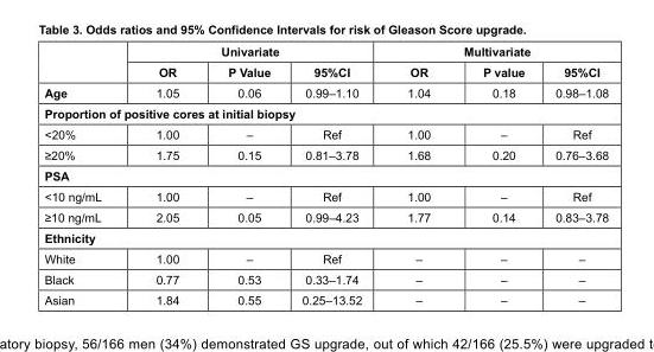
<table><thead><tr><td rowspan="2"></td><td colspan="3">Univariate</td><td colspan="3">Multivariate</td></tr><tr><td>OR</td><td>P Value</td><td>95%CI</td><td>OR</td><td>P value</td><td>95%CI</td></tr></thead><tbody><tr><td>Age</td><td>1.05</td><td>0.06</td><td>0.99–1.10</td><td>1.04</td><td>0.18</td><td>0.98–1.08</td></tr><tr><td colspan="7">Proportion of positive cores at initial biopsy</td></tr><tr><td>&lt;20%</td><td>1.00</td><td>–</td><td>Ref</td><td>1.00</td><td>–</td><td>Ref</td></tr><tr><td>≥20%</td><td>1.75</td><td>0.15</td><td>0.81–3.78</td><td>1.68</td><td>0.20</td><td>0.76–3.68</td></tr><tr><td colspan="7">PSA</td></tr><tr><td>&lt;10 ng/mL</td><td>1.00</td><td>–</td><td>Ref</td><td>1.00</td><td>–</td><td>Ref</td></tr><tr><td>≥10 ng/mL</td><td>2.05</td><td>0.05</td><td>0.99–4.23</td><td>1.77</td><td>0.14</td><td>0.83–3.78</td></tr><tr><td colspan="7">Ethnicity</td></tr><tr><td>White</td><td>1.00</td><td>–</td><td>Ref</td><td>–</td><td>–</td><td>–</td></tr><tr><td>Black</td><td>0.77</td><td>0.53</td><td>0.33–1.74</td><td>–</td><td>–</td><td>–</td></tr><tr><td>Asian</td><td>1.84</td><td>0.55</td><td>0.25–13.52</td><td>–</td><td>–</td><td>–</td></tr></tbody></table>